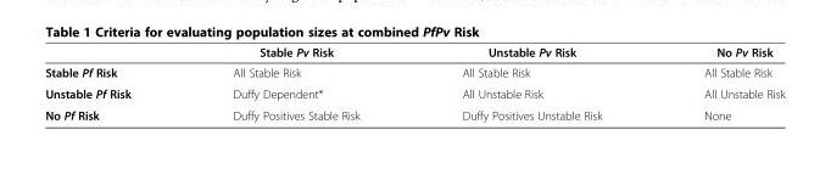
<table><thead><tr><td></td><td>Stable Pv Risk</td><td>Unstable Pv Risk</td><td>No Pv Risk</td></tr></thead><tbody><tr><td>Stable Pf Risk</td><td>All Stable Risk</td><td>All Stable Risk</td><td>All Stable Risk</td></tr><tr><td>Unstable Pf Risk</td><td>Duffy Dependent*</td><td>All Unstable Risk</td><td>All Unstable Risk</td></tr><tr><td>No Pf Risk</td><td>Duffy Positives Stable Risk</td><td>Duffy Positives Unstable Risk</td><td>None</td></tr></tbody></table>